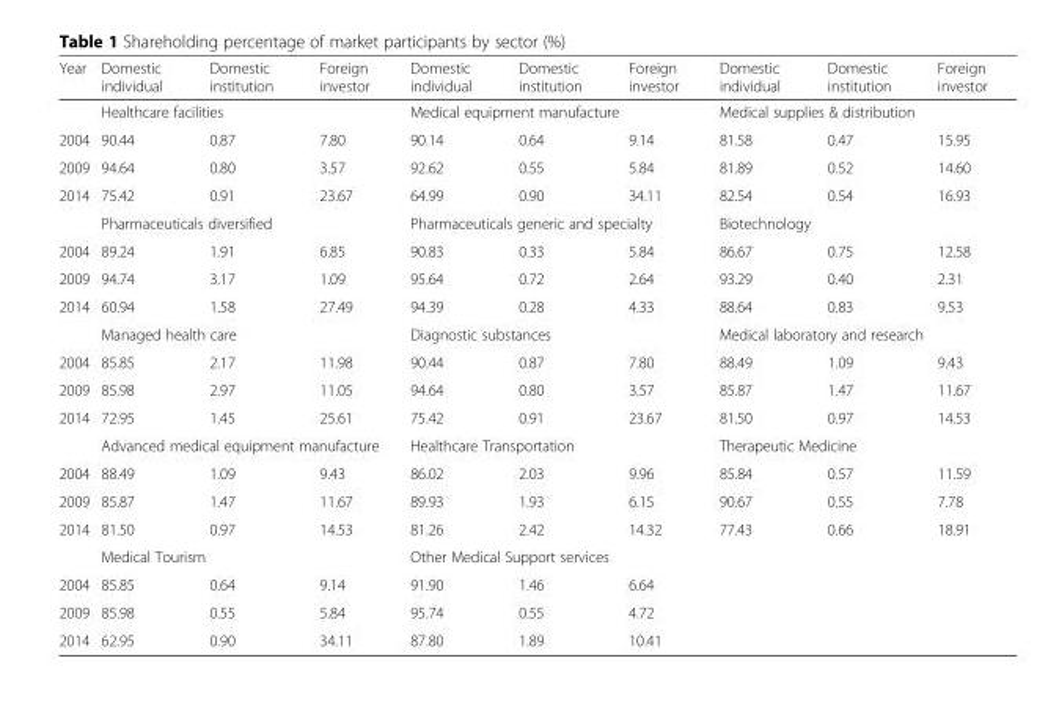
<table><thead><tr><td>Year</td><td>Domestic individual</td><td>Domestic institution</td><td>Foreign investor</td><td>Domestic individual</td><td>Domestic institution</td><td>Foreign investor</td><td>Domestic individual</td><td>Domestic institution</td><td>Foreign investor</td></tr></thead><tbody><tr><td></td><td colspan="3">Healthcare facilities</td><td colspan="3">Medical equipment manufacture</td><td colspan="3">Medical supplies &amp; distribution</td></tr><tr><td>2004</td><td>90.44</td><td>0.87</td><td>7.80</td><td>90.14</td><td>0.64</td><td>9.14</td><td>81.58</td><td>0.47</td><td>15.95</td></tr><tr><td>2009</td><td>94.64</td><td>0.80</td><td>3.57</td><td>92.62</td><td>0.55</td><td>5.84</td><td>81.89</td><td>0.52</td><td>14.60</td></tr><tr><td rowspan="2">2014</td><td>75.42</td><td>0.91</td><td>23.67</td><td>64.99</td><td>0.90</td><td>34.11</td><td>82.54</td><td>0.54</td><td>16.93</td></tr><tr><td colspan="3">Pharmaceuticals diversified</td><td colspan="3">Pharmaceuticals generic and specialty</td><td colspan="3">Biotechnology</td></tr><tr><td>2004</td><td>89.24</td><td>1.91</td><td>6.85</td><td>90.83</td><td>0.33</td><td>5.84</td><td>86.67</td><td>0.75</td><td>12.58</td></tr><tr><td>2009</td><td>94.74</td><td>3.17</td><td>1.09</td><td>95.64</td><td>0.72</td><td>2.64</td><td>93.29</td><td>0.40</td><td>2.31</td></tr><tr><td rowspan="2">2014</td><td>60.94</td><td>1.58</td><td>27.49</td><td>94.39</td><td>0.28</td><td>4.33</td><td>88.64</td><td>0.83</td><td>9.53</td></tr><tr><td colspan="3">Managed health care</td><td colspan="3">Diagnostic substances</td><td colspan="3">Medical laboratory and research</td></tr><tr><td>2004</td><td>85.85</td><td>2.17</td><td>11.98</td><td>90.44</td><td>0.87</td><td>7.80</td><td>88.49</td><td>1.09</td><td>9.43</td></tr><tr><td>2009</td><td>85.98</td><td>2.97</td><td>11.05</td><td>94.64</td><td>0.80</td><td>3.57</td><td>85.87</td><td>1.47</td><td>11.67</td></tr><tr><td rowspan="2">2014</td><td>72.95</td><td>1.45</td><td>25.61</td><td>75.42</td><td>0.91</td><td>23.67</td><td>81.50</td><td>0.97</td><td>14.53</td></tr><tr><td colspan="3">Advanced medical equipment manufacture</td><td colspan="3">Healthcare Transportation</td><td colspan="3">Therapeutic Medicine</td></tr><tr><td>2004</td><td>88.49</td><td>1.09</td><td>9.43</td><td>86.02</td><td>2.03</td><td>9.96</td><td>85.84</td><td>0.57</td><td>11.59</td></tr><tr><td>2009</td><td>85.87</td><td>1.47</td><td>11.67</td><td>89.93</td><td>1.93</td><td>6.15</td><td>90.67</td><td>0.55</td><td>7.78</td></tr><tr><td rowspan="2">2014</td><td>81.50</td><td>0.97</td><td>14.53</td><td>81.26</td><td>2.42</td><td>14.32</td><td>77.43</td><td>0.66</td><td>18.91</td></tr><tr><td colspan="3">Medical Tourism</td><td colspan="3">Other Medical Support services</td><td></td><td></td><td></td></tr><tr><td>2004</td><td>85.85</td><td>0.64</td><td>9.14</td><td>91.90</td><td>1.46</td><td>6.64</td><td></td><td></td><td></td></tr><tr><td>2009</td><td>85.98</td><td>0.55</td><td>5.84</td><td>95.74</td><td>0.55</td><td>4.72</td><td></td><td></td><td></td></tr><tr><td>2014</td><td>62.95</td><td>0.90</td><td>34.11</td><td>87.80</td><td>1.89</td><td>10.41</td><td></td><td></td><td></td></tr></tbody></table>